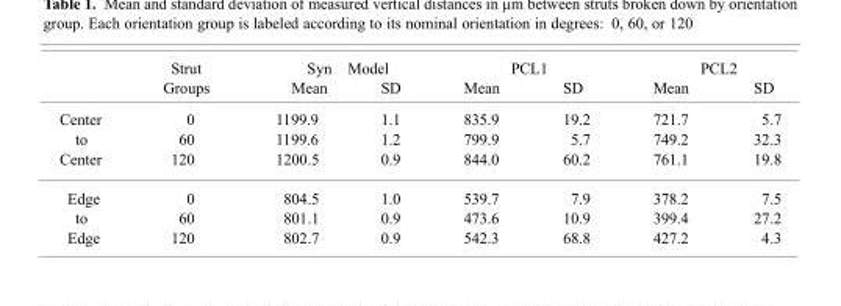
<table><thead><tr><td rowspan="2"></td><td rowspan="2">Strut Groups</td><td colspan="2">Syn Model</td><td colspan="2">PCL1</td><td colspan="2">PCL2</td></tr><tr><td>Mean</td><td>SD</td><td>Mean</td><td>SD</td><td>Mean</td><td>SD</td></tr></thead><tbody><tr><td rowspan="3">Center to Center</td><td>0</td><td>1199.9</td><td>1.1</td><td>835.9</td><td>19.2</td><td>721.7</td><td>5.7</td></tr><tr><td>60</td><td>1199.6</td><td>1.2</td><td>799.9</td><td>5.7</td><td>749.2</td><td>32.3</td></tr><tr><td>120</td><td>1200.5</td><td>0.9</td><td>844.0</td><td>60.2</td><td>761.1</td><td>19.8</td></tr><tr><td rowspan="3">Edge to Edge</td><td>0</td><td>804.5</td><td>1.0</td><td>539.7</td><td>7.9</td><td>378.2</td><td>7.5</td></tr><tr><td>60</td><td>801.1</td><td>0.9</td><td>473.6</td><td>10.9</td><td>399.4</td><td>27.2</td></tr><tr><td>120</td><td>802.7</td><td>0.9</td><td>542.3</td><td>68.8</td><td>427.2</td><td>4.3</td></tr></tbody></table>